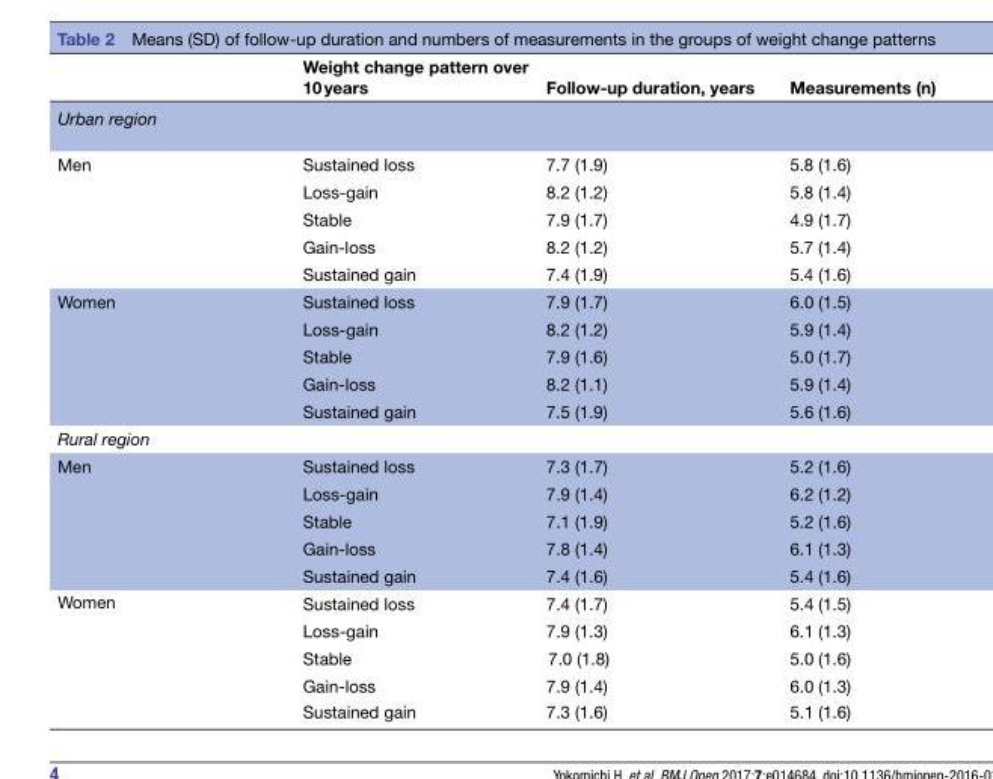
<table><thead><tr><td></td><td>Weight change pattern over 10 years</td><td>Follow-up duration, years</td><td>Measurements (n)</td></tr></thead><tbody><tr><td colspan="4">Urban region</td></tr><tr><td rowspan="5">Men</td><td>Sustained loss</td><td>7.7 (1.9)</td><td>5.8 (1.6)</td></tr><tr><td>Loss-gain</td><td>8.2 (1.2)</td><td>5.8 (1.4)</td></tr><tr><td>Stable</td><td>7.9 (1.7)</td><td>4.9 (1.7)</td></tr><tr><td>Gain-loss</td><td>8.2 (1.2)</td><td>5.7 (1.4)</td></tr><tr><td>Sustained gain</td><td>7.4 (1.9)</td><td>5.4 (1.6)</td></tr><tr><td rowspan="5">Women</td><td>Sustained loss</td><td>7.9 (1.7)</td><td>6.0 (1.5)</td></tr><tr><td>Loss-gain</td><td>8.2 (1.2)</td><td>5.9 (1.4)</td></tr><tr><td>Stable</td><td>7.9 (1.6)</td><td>5.0 (1.7)</td></tr><tr><td>Gain-loss</td><td>8.2 (1.1)</td><td>5.9 (1.4)</td></tr><tr><td>Sustained gain</td><td>7.5 (1.9)</td><td>5.6 (1.6)</td></tr><tr><td colspan="4">Rural region</td></tr><tr><td rowspan="5">Men</td><td>Sustained loss</td><td>7.3 (1.7)</td><td>5.2 (1.6)</td></tr><tr><td>Loss-gain</td><td>7.9 (1.4)</td><td>6.2 (1.2)</td></tr><tr><td>Stable</td><td>7.1 (1.9)</td><td>5.2 (1.6)</td></tr><tr><td>Gain-loss</td><td>7.8 (1.4)</td><td>6.1 (1.3)</td></tr><tr><td>Sustained gain</td><td>7.4 (1.6)</td><td>5.4 (1.6)</td></tr><tr><td rowspan="5">Women</td><td>Sustained loss</td><td>7.4 (1.7)</td><td>5.4 (1.5)</td></tr><tr><td>Loss-gain</td><td>7.9 (1.3)</td><td>6.1 (1.3)</td></tr><tr><td>Stable</td><td>7.0 (1.8)</td><td>5.0 (1.6)</td></tr><tr><td>Gain-loss</td><td>7.9 (1.4)</td><td>6.0 (1.3)</td></tr><tr><td>Sustained gain</td><td>7.3 (1.6)</td><td>5.1 (1.6)</td></tr></tbody></table>